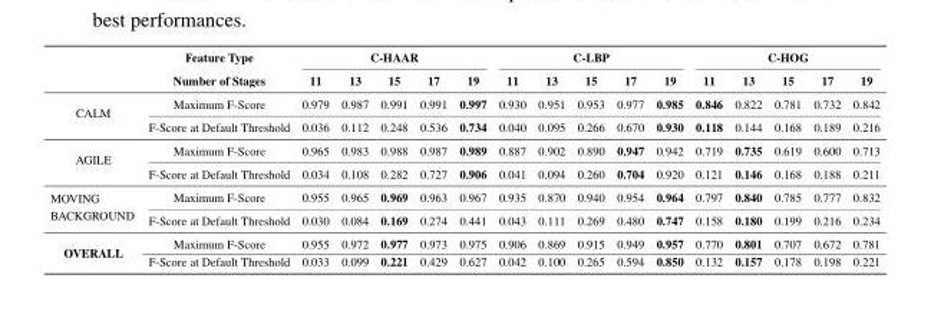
<table><thead><tr><td rowspan="2"></td><td rowspan="2">Feature Type Number of Stages</td><td colspan="5">C-HAAR</td><td colspan="5">C-LBP</td><td colspan="5">C-HOG</td></tr><tr><td>11</td><td>13</td><td>15</td><td>17</td><td>19</td><td>11</td><td>13</td><td>15</td><td>17</td><td>19</td><td>11</td><td>13</td><td>15</td><td>17</td><td>19</td></tr></thead><tbody><tr><td rowspan="2">CALM</td><td>Maximum F-Score</td><td>0.979</td><td>0.987</td><td>0.991</td><td>0.991</td><td>0.997</td><td>0.930</td><td>0.951</td><td>0.953</td><td>0.977</td><td>0.985</td><td>0.846</td><td>0.822</td><td>0.781</td><td>0.732</td><td>0.842</td></tr><tr><td>F-Score at Default Threshold</td><td>0.036</td><td>0.112</td><td>0.248</td><td>0.536</td><td>0.734</td><td>0.040</td><td>0.095</td><td>0.266</td><td>0.670</td><td>0.930</td><td>0.118</td><td>0.144</td><td>0.168</td><td>0.189</td><td>0.216</td></tr><tr><td rowspan="2">AGILE</td><td>Maximum F-Score</td><td>0.965</td><td>0.983</td><td>0.988</td><td>0.987</td><td>0.989</td><td>0.887</td><td>0.902</td><td>0.890</td><td>0.947</td><td>0.942</td><td>0.719</td><td>0.735</td><td>0.619</td><td>0.600</td><td>0.713</td></tr><tr><td>F-Score at Default Threshold</td><td>0.034</td><td>0.108</td><td>0.282</td><td>0.727</td><td>0.906</td><td>0.041</td><td>0.094</td><td>0.260</td><td>0.704</td><td>0.920</td><td>0.121</td><td>0.146</td><td>0.168</td><td>0.188</td><td>0.211</td></tr><tr><td rowspan="2">MOVING BACKGROUND</td><td>Maximum F-Score</td><td>0.955</td><td>0.965</td><td>0.969</td><td>0.963</td><td>0.967</td><td>0.935</td><td>0.870</td><td>0.940</td><td>0.954</td><td>0.964</td><td>0.797</td><td>0.840</td><td>0.785</td><td>0.777</td><td>0.832</td></tr><tr><td>F-Score at Default Threshold</td><td>0.030</td><td>0.084</td><td>0.169</td><td>0.274</td><td>0.441</td><td>0.043</td><td>0.111</td><td>0.269</td><td>0.480</td><td>0.747</td><td>0.158</td><td>0.180</td><td>0.199</td><td>0.216</td><td>0.234</td></tr><tr><td rowspan="2">OVERALL</td><td>Maximum F-Score</td><td>0.955</td><td>0.972</td><td>0.977</td><td>0.973</td><td>0.975</td><td>0.906</td><td>0.869</td><td>0.915</td><td>0.949</td><td>0.957</td><td>0.770</td><td>0.801</td><td>0.707</td><td>0.672</td><td>0.781</td></tr><tr><td>F-Score at Default Threshold</td><td>0.033</td><td>0.099</td><td>0.221</td><td>0.429</td><td>0.627</td><td>0.042</td><td>0.100</td><td>0.265</td><td>0.594</td><td>0.850</td><td>0.132</td><td>0.157</td><td>0.178</td><td>0.198</td><td>0.221</td></tr></tbody></table>